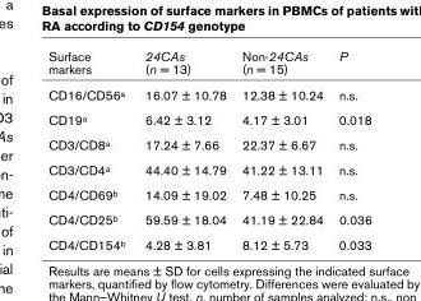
<table><thead><tr><td>Surface markers</td><td>24CAs (n = 13)</td><td>Non-24CAs (n = 15)</td><td>P</td></tr></thead><tbody><tr><td>CD16/CD56<sup>a</sup></td><td>16.07 ± 10.78</td><td>12.38 ± 10.24</td><td>n.s.</td></tr><tr><td>CD19<sup>a</sup></td><td>6.42 ± 3.12</td><td>4.17 ± 3.01</td><td>0.018</td></tr><tr><td>CD3/CD8<sup>a</sup></td><td>17.24 ± 7.66</td><td>22.37 ± 6.67</td><td>n.s.</td></tr><tr><td>CD3/CD4<sup>a</sup></td><td>44.40 ± 14.79</td><td>41.22 ± 13.11</td><td>n.s.</td></tr><tr><td>CD4/CD69<sup>b</sup></td><td>14.09 ± 19.02</td><td>7.48 ± 10.25</td><td>n.s.</td></tr><tr><td>CD4/CD25<sup>b</sup></td><td>59.59 ± 18.04</td><td>41.19 ± 22.84</td><td>0.036</td></tr><tr><td>CD4/CD154<sup>b</sup></td><td>4.28 ± 3.81</td><td>8.12 ± 5.73</td><td>0.033</td></tr></tbody></table>